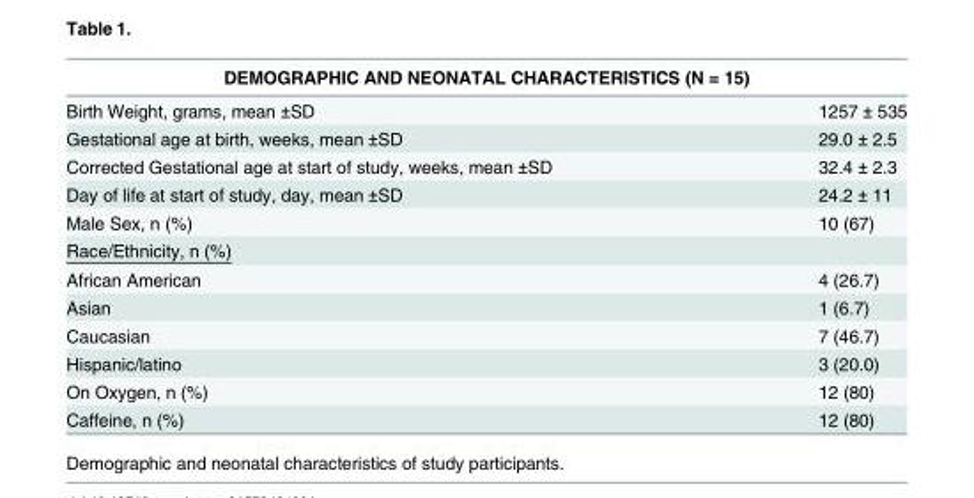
<table><thead><tr><td colspan="2">DEMOGRAPHIC AND NEONATAL CHARACTERISTICS (N = 15)</td></tr><tr><td>Birth Weight, grams, mean ±SD</td><td>1257 ± 535</td></tr></thead><tbody><tr><td>Gestational age at birth, weeks, mean ±SD</td><td>29.0 ± 2.5</td></tr><tr><td>Corrected Gestational age at start of study, weeks, mean ±SD</td><td>32.4 ± 2.3</td></tr><tr><td>Day of life at start of study, day, mean ±SD</td><td>24.2 ± 11</td></tr><tr><td>Male Sex, n (%)</td><td>10 (67)</td></tr><tr><td colspan="2">Race/Ethnicity, n (%)</td></tr><tr><td>African American</td><td>4 (26.7)</td></tr><tr><td>Asian</td><td>1 (6.7)</td></tr><tr><td>Caucasian</td><td>7 (46.7)</td></tr><tr><td>Hispanic/latino</td><td>3 (20.0)</td></tr><tr><td>On Oxygen, n (%)</td><td>12 (80)</td></tr><tr><td>Caffeine, n (%)</td><td>12 (80)</td></tr></tbody></table>